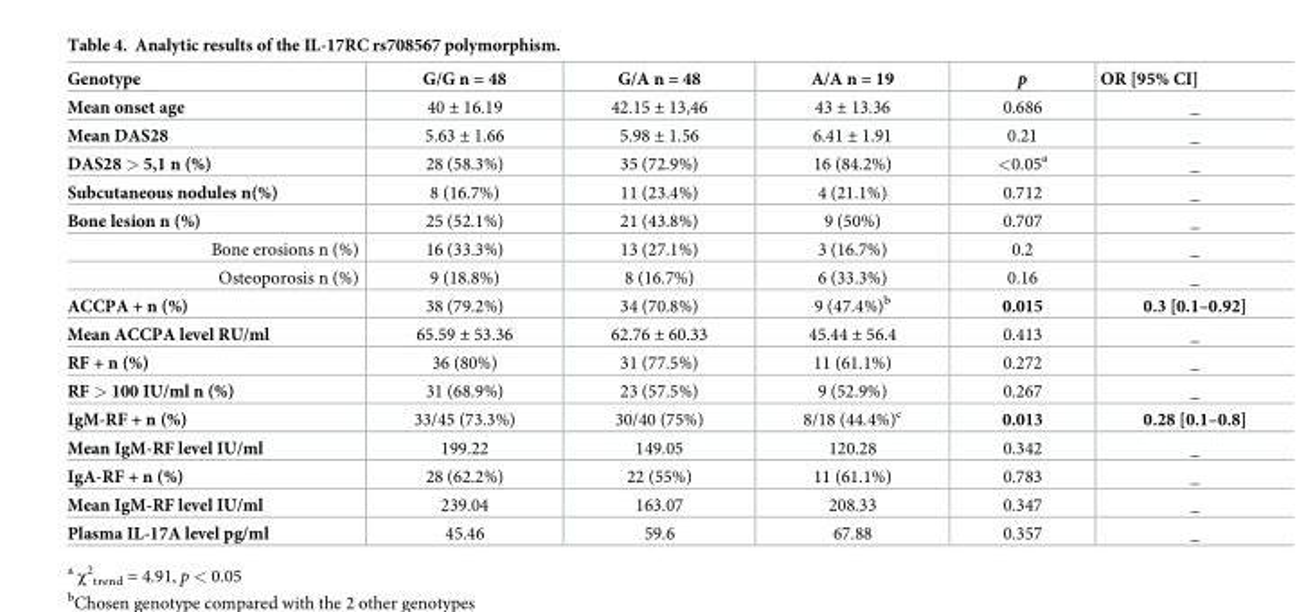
<table><thead><tr><td>Genotype</td><td>G/G n = 48</td><td>G/A n = 48</td><td>A/A n = 19</td><td>p</td><td>OR [95% CI]</td></tr></thead><tbody><tr><td>Mean onset age</td><td>40 ± 16.19</td><td>42.15 ± 13,46</td><td>43 ± 13.36</td><td>0.686</td><td>_</td></tr><tr><td>Mean DAS28</td><td>5.63 ± 1.66</td><td>5.98 ± 1.56</td><td>6.41 ± 1.91</td><td>0.21</td><td>_</td></tr><tr><td>DAS28 &gt; 5,1 n (%)</td><td>28 (58.3%)</td><td>35 (72.9%)</td><td>16 (84.2%)</td><td>&lt;0.05<sup>a</sup></td><td>_</td></tr><tr><td>Subcutaneous nodules n(%)</td><td>8 (16.7%)</td><td>11 (23.4%)</td><td>4 (21.1%)</td><td>0.712</td><td>_</td></tr><tr><td>Bone lesion n (%)</td><td>25 (52.1%)</td><td>21 (43.8%)</td><td>9 (50%)</td><td>0.707</td><td>_</td></tr><tr><td>Bone erosions n (%)</td><td>16 (33.3%)</td><td>13 (27.1%)</td><td>3 (16.7%)</td><td>0.2</td><td>_</td></tr><tr><td>Osteoporosis n (%)</td><td>9 (18.8%)</td><td>8 (16.7%)</td><td>6 (33.3%)</td><td>0.16</td><td>_</td></tr><tr><td>ACCPA + n (%)</td><td>38 (79.2%)</td><td>34 (70.8%)</td><td>9 (47.4%)<sup>b</sup></td><td>0.015</td><td>0.3 [0.1–0.92]</td></tr><tr><td>Mean ACCPA level RU/ml</td><td>65.59 ± 53.36</td><td>62.76 ± 60.33</td><td>45.44 ± 56.4</td><td>0.413</td><td>_</td></tr><tr><td>RF + n (%)</td><td>36 (80%)</td><td>31 (77.5%)</td><td>11 (61.1%)</td><td>0.272</td><td>_</td></tr><tr><td>RF &gt; 100 IU/ml n (%)</td><td>31 (68.9%)</td><td>23 (57.5%)</td><td>9 (52.9%)</td><td>0.267</td><td>_</td></tr><tr><td>IgM-RF + n (%)</td><td>33/45 (73.3%)</td><td>30/40 (75%)</td><td>8/18 (44.4%)<sup>c</sup></td><td>0.013</td><td>0.28 [0.1–0.8]</td></tr><tr><td>Mean IgM-RF level IU/ml</td><td>199.22</td><td>149.05</td><td>120.28</td><td>0.342</td><td>_</td></tr><tr><td>IgA-RF + n (%)</td><td>28 (62.2%)</td><td>22 (55%)</td><td>11 (61.1%)</td><td>0.783</td><td>_</td></tr><tr><td>Mean IgM-RF level IU/ml</td><td>239.04</td><td>163.07</td><td>208.33</td><td>0.347</td><td>_</td></tr><tr><td>Plasma IL-17A level pg/ml</td><td>45.46</td><td>59.6</td><td>67.88</td><td>0.357</td><td>_</td></tr></tbody></table>